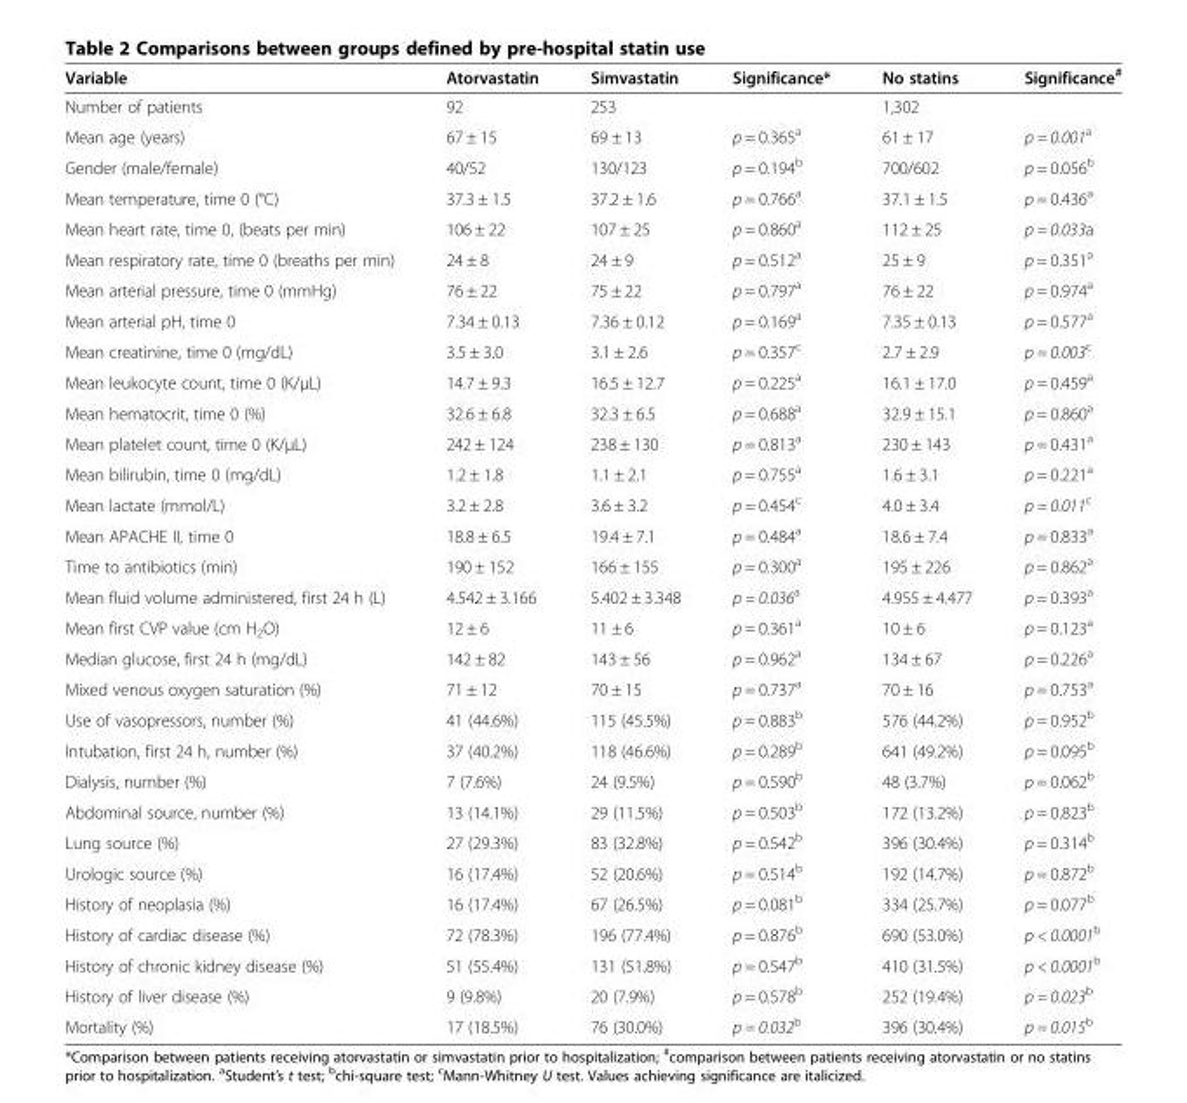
<table><thead><tr><td>Variable</td><td>Atorvastatin</td><td>Simvastatin</td><td>Significance*</td><td>No statins</td><td>Significance<sup>#</sup></td></tr></thead><tbody><tr><td>Number of patients</td><td>92</td><td>253</td><td></td><td>1,302</td><td></td></tr><tr><td>Mean age (years)</td><td>67 ± 15</td><td>69 ± 13</td><td>p = 0.365<sup>a</sup></td><td>61 ± 17</td><td>p = 0.001<sup>a</sup></td></tr><tr><td>Gender (male/female)</td><td>40/52</td><td>130/123</td><td>p = 0.194<sup>b</sup></td><td>700/602</td><td>p = 0.056<sup>b</sup></td></tr><tr><td>Mean temperature, time 0 (°C)</td><td>37.3 ± 1.5</td><td>37.2 ± 1.6</td><td>p = 0.766<sup>a</sup></td><td>37.1 ± 1.5</td><td>p = 0.436<sup>a</sup></td></tr><tr><td>Mean heart rate, time 0, (beats per min)</td><td>106 ± 22</td><td>107 ± 25</td><td>p = 0.860<sup>a</sup></td><td>112 ± 25</td><td>p = 0.033a</td></tr><tr><td>Mean respiratory rate, time 0 (breaths per min)</td><td>24 ± 8</td><td>24 ± 9</td><td>p = 0.512<sup>a</sup></td><td>25 ± 9</td><td>p = 0.351<sup>a</sup></td></tr><tr><td>Mean arterial pressure, time 0 (mmHg)</td><td>76 ± 22</td><td>75 ± 22</td><td>p = 0.797<sup>a</sup></td><td>76 ± 22</td><td>p = 0.974<sup>a</sup></td></tr><tr><td>Mean arterial pH, time 0</td><td>7.34 ± 0.13</td><td>7.36 ± 0.12</td><td>p = 0.169<sup>a</sup></td><td>7.35 ± 0.13</td><td>p = 0.577<sup>a</sup></td></tr><tr><td>Mean creatinine, time 0 (mg/dL)</td><td>3.5 ± 3.0</td><td>3.1 ± 2.6</td><td>p = 0.357<sup>c</sup></td><td>2.7 ± 2.9</td><td>p = 0.003<sup>c</sup></td></tr><tr><td>Mean leukocyte count, time 0 (K/μL)</td><td>14.7 ± 9.3</td><td>16.5 ± 12.7</td><td>p = 0.225<sup>a</sup></td><td>16.1 ± 17.0</td><td>p = 0.459<sup>a</sup></td></tr><tr><td>Mean hematocrit, time 0 (%)</td><td>32.6 ± 6.8</td><td>32.3 ± 6.5</td><td>p = 0.688<sup>a</sup></td><td>32.9 ± 15.1</td><td>p = 0.860<sup>a</sup></td></tr><tr><td>Mean platelet count, time 0 (K/μL)</td><td>242 ± 124</td><td>238 ± 130</td><td>p = 0.813<sup>a</sup></td><td>230 ± 143</td><td>p = 0.431<sup>a</sup></td></tr><tr><td>Mean bilirubin, time 0 (mg/dL)</td><td>1.2 ± 1.8</td><td>1.1 ± 2.1</td><td>p = 0.755<sup>a</sup></td><td>1.6 ± 3.1</td><td>p = 0.221<sup>a</sup></td></tr><tr><td>Mean lactate (mmol/L)</td><td>3.2 ± 2.8</td><td>3.6 ± 3.2</td><td>p = 0.454<sup>c</sup></td><td>4.0 ± 3.4</td><td>p = 0.011<sup>c</sup></td></tr><tr><td>Mean APACHE II, time 0</td><td>18.8 ± 6.5</td><td>19.4 ± 7.1</td><td>p = 0.484<sup>a</sup></td><td>18.6 ± 7.4</td><td>p = 0.833<sup>a</sup></td></tr><tr><td>Time to antibiotics (min)</td><td>190 ± 152</td><td>166 ± 155</td><td>p = 0.300<sup>a</sup></td><td>195 ± 226</td><td>p = 0.862<sup>a</sup></td></tr><tr><td>Mean fluid volume administered, first 24 h (L)</td><td>4.542 ± 3.166</td><td>5.402 ± 3.348</td><td>p = 0.036<sup>a</sup></td><td>4.955 ± 4.477</td><td>p = 0.393<sup>a</sup></td></tr><tr><td>Mean first CVP value (cm H<sub>2</sub>O)</td><td>12 ± 6</td><td>11 ± 6</td><td>p = 0.361<sup>a</sup></td><td>10 ± 6</td><td>p = 0.123<sup>a</sup></td></tr><tr><td>Median glucose, first 24 h (mg/dL)</td><td>142 ± 82</td><td>143 ± 56</td><td>p = 0.962<sup>a</sup></td><td>134 ± 67</td><td>p = 0.226<sup>a</sup></td></tr><tr><td>Mixed venous oxygen saturation (%)</td><td>71 ± 12</td><td>70 ± 15</td><td>p = 0.737<sup>a</sup></td><td>70 ± 16</td><td>p = 0.753<sup>a</sup></td></tr><tr><td>Use of vasopressors, number (%)</td><td>41 (44.6%)</td><td>115 (45.5%)</td><td>p = 0.883<sup>b</sup></td><td>576 (44.2%)</td><td>p = 0.952<sup>b</sup></td></tr><tr><td>Intubation, first 24 h, number (%)</td><td>37 (40.2%)</td><td>118 (46.6%)</td><td>p = 0.289<sup>b</sup></td><td>641 (49.2%)</td><td>p = 0.095<sup>b</sup></td></tr><tr><td>Dialysis, number (%)</td><td>7 (7.6%)</td><td>24 (9.5%)</td><td>p = 0.590<sup>b</sup></td><td>48 (3.7%)</td><td>p = 0.062<sup>b</sup></td></tr><tr><td>Abdominal source, number (%)</td><td>13 (14.1%)</td><td>29 (11.5%)</td><td>p = 0.503<sup>b</sup></td><td>172 (13.2%)</td><td>p = 0.823<sup>b</sup></td></tr><tr><td>Lung source (%)</td><td>27 (29.3%)</td><td>83 (32.8%)</td><td>p = 0.542<sup>b</sup></td><td>396 (30.4%)</td><td>p = 0.314<sup>b</sup></td></tr><tr><td>Urologic source (%)</td><td>16 (17.4%)</td><td>52 (20.6%)</td><td>p = 0.514<sup>b</sup></td><td>192 (14.7%)</td><td>p = 0.872<sup>b</sup></td></tr><tr><td>History of neoplasia (%)</td><td>16 (17.4%)</td><td>67 (26.5%)</td><td>p = 0.081<sup>b</sup></td><td>334 (25.7%)</td><td>p = 0.077<sup>b</sup></td></tr><tr><td>History of cardiac disease (%)</td><td>72 (78.3%)</td><td>196 (77.4%)</td><td>p = 0.876<sup>b</sup></td><td>690 (53.0%)</td><td>p &lt; 0.0001<sup>b</sup></td></tr><tr><td>History of chronic kidney disease (%)</td><td>51 (55.4%)</td><td>131 (51.8%)</td><td>p = 0.547<sup>b</sup></td><td>410 (31.5%)</td><td>p &lt; 0.0001<sup>b</sup></td></tr><tr><td>History of liver disease (%)</td><td>9 (9.8%)</td><td>20 (7.9%)</td><td>p = 0.578<sup>b</sup></td><td>252 (19.4%)</td><td>p = 0.023<sup>b</sup></td></tr><tr><td>Mortality (%)</td><td>17 (18.5%)</td><td>76 (30.0%)</td><td>p = 0.032<sup>b</sup></td><td>396 (30.4%)</td><td>p = 0.015<sup>b</sup></td></tr></tbody></table>